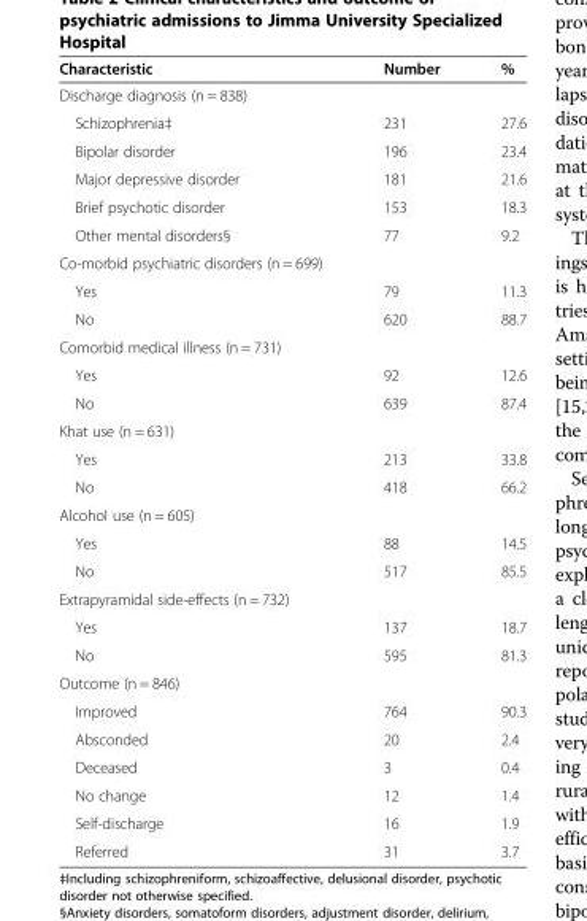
<table><thead><tr><td>Characteristic</td><td>Number</td><td>%</td></tr></thead><tbody><tr><td colspan="3">Discharge diagnosis (n = 838)</td></tr><tr><td>Schizophrenia‡</td><td>231</td><td>27.6</td></tr><tr><td>Bipolar disorder</td><td>196</td><td>23.4</td></tr><tr><td>Major depressive disorder</td><td>181</td><td>21.6</td></tr><tr><td>Brief psychotic disorder</td><td>153</td><td>18.3</td></tr><tr><td>Other mental disorders§</td><td>77</td><td>9.2</td></tr><tr><td colspan="3">Co-morbid psychiatric disorders (n = 699)</td></tr><tr><td>Yes</td><td>79</td><td>11.3</td></tr><tr><td>No</td><td>620</td><td>88.7</td></tr><tr><td colspan="3">Comorbid medical illness (n = 731)</td></tr><tr><td>Yes</td><td>92</td><td>12.6</td></tr><tr><td>No</td><td>639</td><td>87.4</td></tr><tr><td colspan="3">Khat use (n = 631)</td></tr><tr><td>Yes</td><td>213</td><td>33.8</td></tr><tr><td>No</td><td>418</td><td>66.2</td></tr><tr><td colspan="3">Alcohol use (n = 605)</td></tr><tr><td>Yes</td><td>88</td><td>14.5</td></tr><tr><td>No</td><td>517</td><td>85.5</td></tr><tr><td colspan="3">Extrapyramidal side-effects (n = 732)</td></tr><tr><td>Yes</td><td>137</td><td>18.7</td></tr><tr><td>No</td><td>595</td><td>81.3</td></tr><tr><td colspan="3">Outcome (n = 846)</td></tr><tr><td>Improved</td><td>764</td><td>90.3</td></tr><tr><td>Absconded</td><td>20</td><td>2.4</td></tr><tr><td>Deceased</td><td>3</td><td>0.4</td></tr><tr><td>No change</td><td>12</td><td>1.4</td></tr><tr><td>Self-discharge</td><td>16</td><td>1.9</td></tr><tr><td>Referred</td><td>31</td><td>3.7</td></tr></tbody></table>